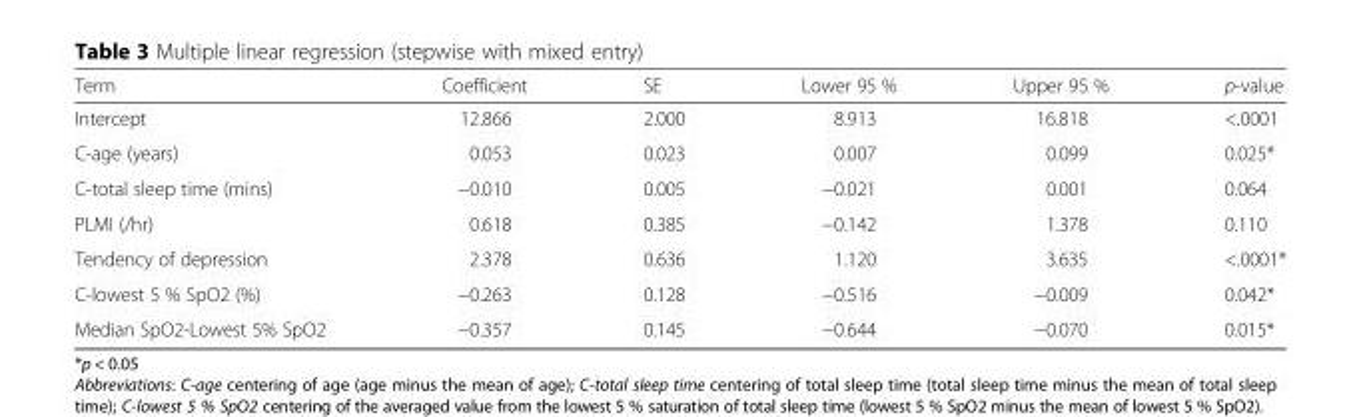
<table><thead><tr><td>Term</td><td>Coefficient</td><td>SE</td><td>Lower 95 %</td><td>Upper 95 %</td><td>p-value</td></tr></thead><tbody><tr><td>Intercept</td><td>12.866</td><td>2.000</td><td>8.913</td><td>16.818</td><td>&lt;.0001</td></tr><tr><td>C-age (years)</td><td>0.053</td><td>0.023</td><td>0.007</td><td>0.099</td><td>0.025*</td></tr><tr><td>C-total sleep time (mins)</td><td>−0.010</td><td>0.005</td><td>−0.021</td><td>0.001</td><td>0.064</td></tr><tr><td>PLMI (/hr)</td><td>0.618</td><td>0.385</td><td>−0.142</td><td>1.378</td><td>0.110</td></tr><tr><td>Tendency of depression</td><td>2.378</td><td>0.636</td><td>1.120</td><td>3.635</td><td>&lt;.0001*</td></tr><tr><td>C-lowest 5 % SpO2 (%)</td><td>−0.263</td><td>0.128</td><td>−0.516</td><td>−0.009</td><td>0.042*</td></tr><tr><td>Median SpO2-Lowest 5% SpO2</td><td>−0.357</td><td>0.145</td><td>−0.644</td><td>−0.070</td><td>0.015*</td></tr></tbody></table>